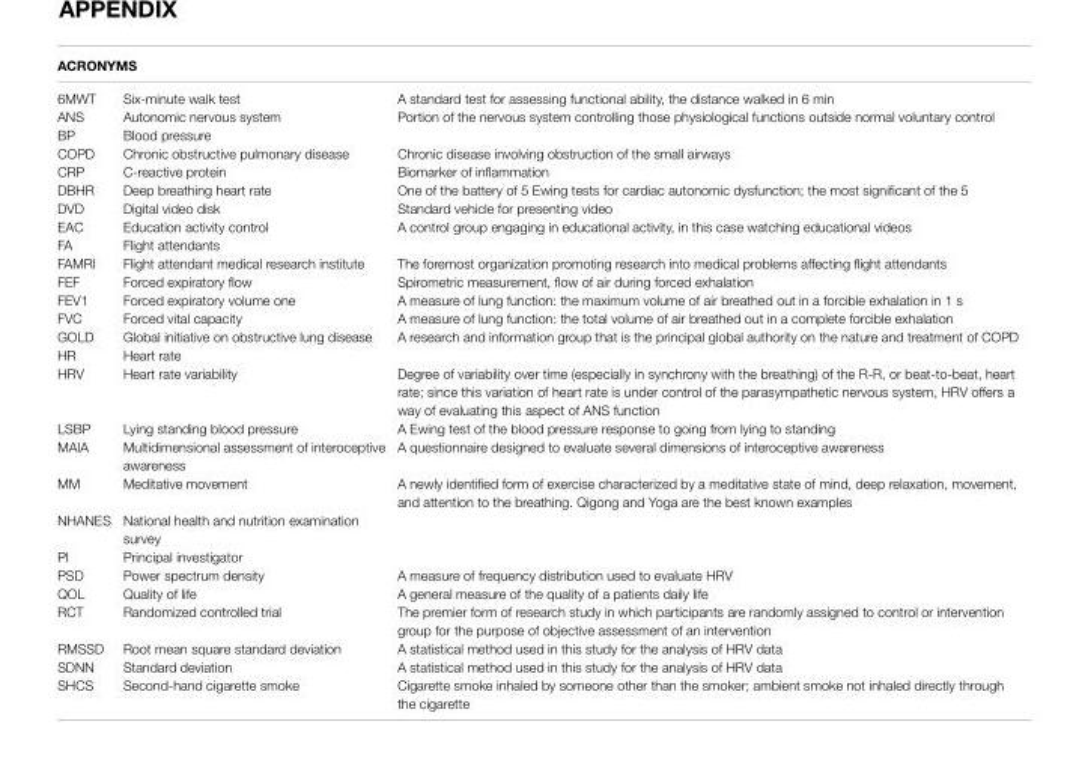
<table><thead><tr><td colspan="3">AcroNYMs</td></tr><tr><td>6MWT</td><td>Six-minute walk test</td><td>A standard test for assessing functional ability, the distance walked in 6 min</td></tr></thead><tbody><tr><td>ANS</td><td>Autonomic nervous system</td><td>Portion of the nervous system controlling those physiological functions outside normal voluntary control</td></tr><tr><td>BP</td><td>Blood pressure</td><td></td></tr><tr><td>COPD</td><td>Chronic obstructive pulmonary disease</td><td>Chronic disease involving obstruction of the small airways</td></tr><tr><td>CRP</td><td>C-reactive protein</td><td>Biomarker of inflammation</td></tr><tr><td>DBHR</td><td>Deep breathing heart rate</td><td>One of the battery of 5 Ewing tests for cardiac autonomic dysfunction; the most significant of the 5</td></tr><tr><td>DVD</td><td>Digital video disk</td><td>Standard vehicle for presenting video</td></tr><tr><td>EAC</td><td>Education activity control</td><td>A control group engaging in educational activity, in this case watching educational videos</td></tr><tr><td>FA</td><td>Flight attendants</td><td></td></tr><tr><td>FAMRI</td><td>Flight attendant medical research institute</td><td>The foremost organization promoting research into medical problems affecting flight attendants</td></tr><tr><td>FEF</td><td>Forced expiratory flow</td><td>Spirometric measurement, flow of air during forced exhalation</td></tr><tr><td>FEV1</td><td>Forced expiratory volume one</td><td>A measure of lung function: the maximum volume of air breathed out in a forcible exhalation in 1 s</td></tr><tr><td>FVC</td><td>Forced vital capacity</td><td>A measure of lung function: the total volume of air breathed out in a complete forcible exhalation</td></tr><tr><td>GOLD</td><td>Global initiative on obstructive lung disease</td><td>A research and information group that is the principal global authority on the nature and treatment of COPD</td></tr><tr><td>HR</td><td>Heart rate</td><td></td></tr><tr><td>HRV</td><td>Heart rate variability</td><td>Degree of variability over time (especially in synchrony with the breathing) of the R-R, or beat-to-beat, heart rate; since this variation of heart rate is under control of the parasympathetic nervous system, HRV offers a way of evaluating this aspect of ANS function</td></tr><tr><td>LSBP</td><td>Lying standing blood pressure</td><td>A Ewing test of the blood pressure response to going from lying to standing</td></tr><tr><td>MAIA</td><td>Multidimensional assessment of interoceptive awareness</td><td>A questionnaire designed to evaluate several dimensions of interoceptive awareness</td></tr><tr><td>MM</td><td>Meditative movement</td><td>A newly identified form of exercise characterized by a meditative state of mind, deep relaxation, movement, and attention to the breathing. Qigong and Yoga are the best known examples</td></tr><tr><td>NHANES</td><td>National health and nutrition examination survey</td><td></td></tr><tr><td>PI</td><td>Principal investigator</td><td></td></tr><tr><td>PSD</td><td>Power spectrum density</td><td>A measure of frequency distribution used to evaluate HRV</td></tr><tr><td>QOL</td><td>Quality of life</td><td>A general measure of the quality of a patients daily life</td></tr><tr><td>RCT</td><td>Randomized controlled trial</td><td>The premier form of research study in which participants are randomly assigned to control or intervention group for the purpose of objective assessment of an intervention</td></tr><tr><td>RMSSD</td><td>Root mean square standard deviation</td><td>A statistical method used in this study for the analysis of HRV data</td></tr><tr><td>SDNN</td><td>Standard deviation</td><td>A statistical method used in this study for the analysis of HRV data</td></tr><tr><td>SHCS</td><td>Second-hand cigarette smoke</td><td>Cigarette smoke inhaled by someone other than the smoker; ambient smoke not inhaled directly through the cigarette</td></tr></tbody></table>